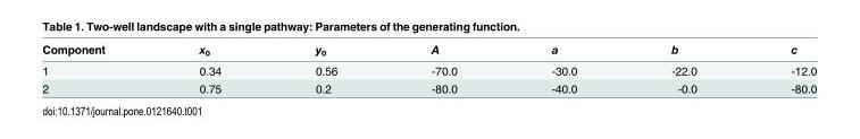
<table><thead><tr><td>Component</td><td>x<sub>0</sub></td><td>y<sub>0</sub></td><td>A</td><td>a</td><td>b</td><td>c</td></tr></thead><tbody><tr><td>1</td><td>0.34</td><td>0.56</td><td>-70.0</td><td>-30.0</td><td>-22.0</td><td>-12.0</td></tr><tr><td>2</td><td>0.75</td><td>0.2</td><td>-80.0</td><td>-40.0</td><td>-0.0</td><td>-80.0</td></tr></tbody></table>